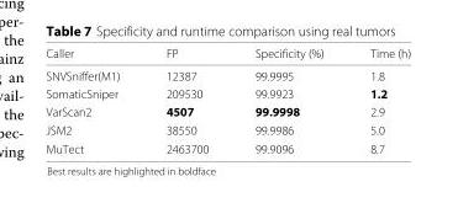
<table><thead><tr><td>Caller</td><td>FP</td><td>Specificity (%)</td><td>Time (h)</td></tr></thead><tbody><tr><td>SNVSniffer(M1)</td><td>12387</td><td>99.9995</td><td>1.8</td></tr><tr><td>SomaticSniper</td><td>209530</td><td>99.9923</td><td>1.2</td></tr><tr><td>VarScan2</td><td>4507</td><td>99.9998</td><td>2.9</td></tr><tr><td>JSM2</td><td>38550</td><td>99.9986</td><td>5.0</td></tr><tr><td>MuTect</td><td>2463700</td><td>99.9096</td><td>8.7</td></tr></tbody></table>